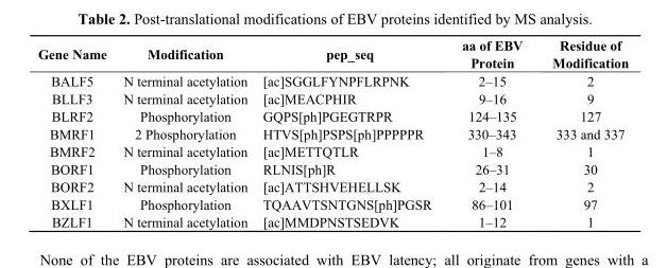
<table><thead><tr><td>Gene Name</td><td>Modification</td><td>pep_seq</td><td>aa of EBV Protein</td><td>Residue of Modification</td></tr></thead><tbody><tr><td>BALF5</td><td>N terminal acetylation</td><td>[ac]SGGLFYNPFLRPNK</td><td>2–15</td><td>2</td></tr><tr><td>BLLF3</td><td>N terminal acetylation</td><td>[ac]MEACPHIR</td><td>9–16</td><td>9</td></tr><tr><td>BLRF2</td><td>Phosphorylation</td><td>GQPS[ph]PGEGTRPR</td><td>124–135</td><td>127</td></tr><tr><td>BMRF1</td><td>2 Phosphorylation</td><td>HTVS[ph]PSPS[ph]PPPPPR</td><td>330–343</td><td>333 and 337</td></tr><tr><td>BMRF2</td><td>N terminal acetylation</td><td>[ac]METTQTLR</td><td>1–8</td><td>1</td></tr><tr><td>BORF1</td><td>Phosphorylation</td><td>RLNIS[ph]R</td><td>26–31</td><td>30</td></tr><tr><td>BORF2</td><td>N terminal acetylation</td><td>[ac]ATTSHVEHELLSK</td><td>2–14</td><td>2</td></tr><tr><td>BXLF1</td><td>Phosphorylation</td><td>TQAAVTSNTGNS[ph]PGSR</td><td>86–101</td><td>97</td></tr><tr><td>BZLF1</td><td>N terminal acetylation</td><td>[ac]MMDPNSTSEDVK</td><td>1–12</td><td>1</td></tr></tbody></table>